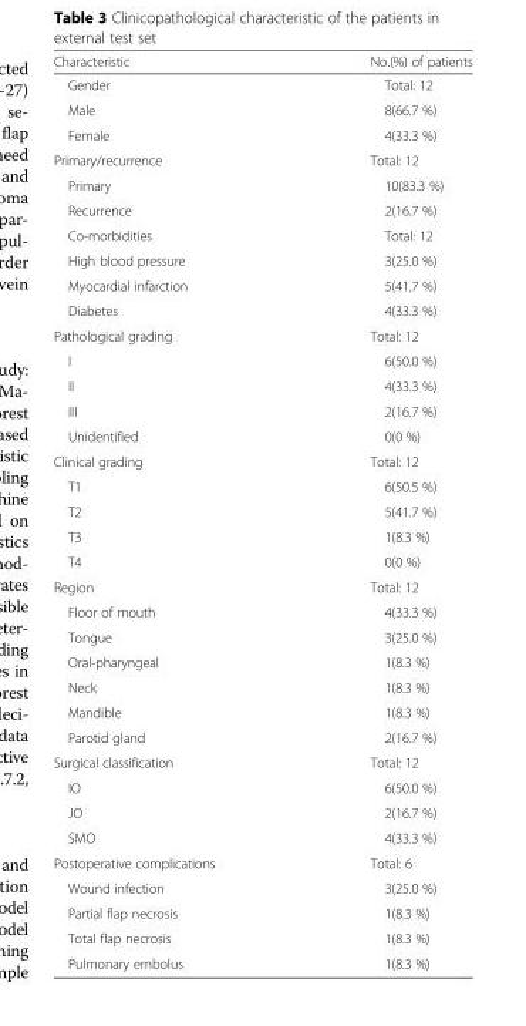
<table><thead><tr><td>Characteristic</td><td>No.(%) of patients</td></tr></thead><tbody><tr><td>Gender</td><td>Total: 12</td></tr><tr><td>Male</td><td>8(66.7 %)</td></tr><tr><td>Female</td><td>4(33.3 %)</td></tr><tr><td>Primary/recurrence</td><td>Total: 12</td></tr><tr><td>Primary</td><td>10(83.3 %)</td></tr><tr><td>Recurrence</td><td>2(16.7 %)</td></tr><tr><td>Co-morbidities</td><td>Total: 12</td></tr><tr><td>High blood pressure</td><td>3(25.0 %)</td></tr><tr><td>Myocardial infarction</td><td>5(41.7 %)</td></tr><tr><td>Diabetes</td><td>4(33.3 %)</td></tr><tr><td>Pathological grading</td><td>Total: 12</td></tr><tr><td>I</td><td>6(50.0 %)</td></tr><tr><td>II</td><td>4(33.3 %)</td></tr><tr><td>III</td><td>2(16.7 %)</td></tr><tr><td>Unidentified</td><td>0(0 %)</td></tr><tr><td>Clinical grading</td><td>Total: 12</td></tr><tr><td>T1</td><td>6(50.5 %)</td></tr><tr><td>T2</td><td>5(41.7 %)</td></tr><tr><td>T3</td><td>1(8.3 %)</td></tr><tr><td>T4</td><td>0(0 %)</td></tr><tr><td>Region</td><td>Total: 12</td></tr><tr><td>Floor of mouth</td><td>4(33.3 %)</td></tr><tr><td>Tongue</td><td>3(25.0 %)</td></tr><tr><td>Oral-pharyngeal</td><td>1(8.3 %)</td></tr><tr><td>Neck</td><td>1(8.3 %)</td></tr><tr><td>Mandible</td><td>1(8.3 %)</td></tr><tr><td>Parotid gland</td><td>2(16.7 %)</td></tr><tr><td>Surgical classification</td><td>Total: 12</td></tr><tr><td>IO</td><td>6(50.0 %)</td></tr><tr><td>JO</td><td>2(16.7 %)</td></tr><tr><td>SMO</td><td>4(33.3 %)</td></tr><tr><td>Postoperative complications</td><td>Total: 6</td></tr><tr><td>Wound infection</td><td>3(25.0 %)</td></tr><tr><td>Partial flap necrosis</td><td>1(8.3 %)</td></tr><tr><td>Total flap necrosis</td><td>1(8.3 %)</td></tr><tr><td>Pulmonary embolus</td><td>1(8.3 %)</td></tr></tbody></table>